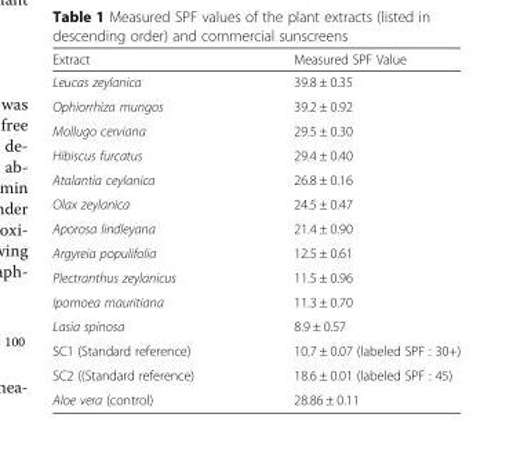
<table><thead><tr><td>Extract</td><td>Measured SPF Value</td></tr></thead><tbody><tr><td>Leucas zeylanica</td><td>39.8 ± 0.35</td></tr><tr><td>Ophiorrhiza mungos</td><td>39.2 ± 0.92</td></tr><tr><td>Mollugo cerviana</td><td>29.5 ± 0.30</td></tr><tr><td>Hibiscus furcatus</td><td>29.4 ± 0.40</td></tr><tr><td>Atalantia ceylanica</td><td>26.8 ± 0.16</td></tr><tr><td>Olax zeylanica</td><td>24.5 ± 0.47</td></tr><tr><td>Aporosa lindleyana</td><td>21.4 ± 0.90</td></tr><tr><td>Argyreia populifolia</td><td>12.5 ± 0.61</td></tr><tr><td>Plectranthus zeylanicus</td><td>11.5 ± 0.96</td></tr><tr><td>Ipomoea mauritiana</td><td>11.3 ± 0.70</td></tr><tr><td>Lasia spinosa</td><td>8.9 ± 0.57</td></tr><tr><td>SC1 (Standard reference)</td><td>10.7 ± 0.07 (labeled SPF : 30+)</td></tr><tr><td>SC2 ((Standard reference)</td><td>18.6 ± 0.01 (labeled SPF : 45)</td></tr><tr><td>Aloe vera (control)</td><td>28.86 ± 0.11</td></tr></tbody></table>